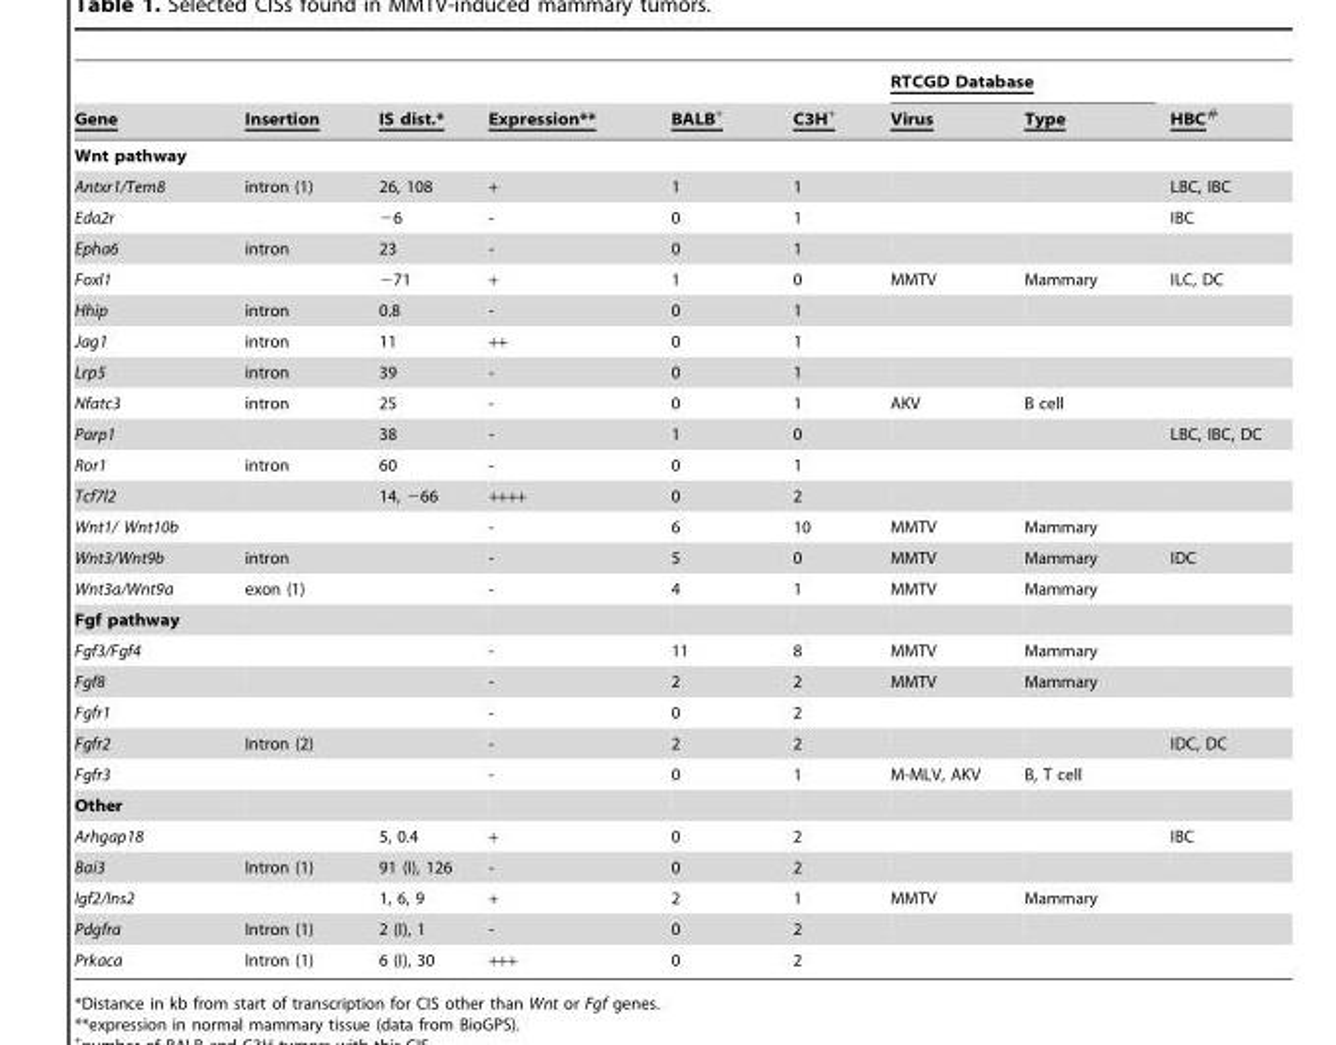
<table><thead><tr><td rowspan="2">Gene</td><td rowspan="2">Insertion</td><td rowspan="2">IS dist.*</td><td rowspan="2">Expression**</td><td rowspan="2">BALB+</td><td rowspan="2">C3H+</td><td colspan="2">RTCGD Database</td><td rowspan="2">HBC#</td></tr><tr><td>Virus</td><td>Type</td></tr></thead><tbody><tr><td colspan="9">Wnt pathway</td></tr><tr><td>Antxr1/Tem8</td><td>intron (1)</td><td>26, 108</td><td>+</td><td>1</td><td>1</td><td></td><td></td><td>LBC, IBC</td></tr><tr><td>Eda2r</td><td></td><td>−6</td><td>-</td><td>0</td><td>1</td><td></td><td></td><td>IBC</td></tr><tr><td>Epha6</td><td>intron</td><td>23</td><td>-</td><td>0</td><td>1</td><td></td><td></td><td></td></tr><tr><td>Foxl1</td><td></td><td>−71</td><td>+</td><td>1</td><td>0</td><td>MMTV</td><td>Mammary</td><td>ILC, DC</td></tr><tr><td>Hhip</td><td>intron</td><td>0.8</td><td>-</td><td>0</td><td>1</td><td></td><td></td><td></td></tr><tr><td>Jag1</td><td>intron</td><td>11</td><td>++</td><td>0</td><td>1</td><td></td><td></td><td></td></tr><tr><td>Lrp5</td><td>intron</td><td>39</td><td>-</td><td>0</td><td>1</td><td></td><td></td><td></td></tr><tr><td>Nfatc3</td><td>intron</td><td>25</td><td>-</td><td>0</td><td>1</td><td>AKV</td><td>B cell</td><td></td></tr><tr><td>Parp1</td><td></td><td>38</td><td>-</td><td>1</td><td>0</td><td></td><td></td><td>LBC, IBC, DC</td></tr><tr><td>Ror1</td><td>intron</td><td>60</td><td>-</td><td>0</td><td>1</td><td></td><td></td><td></td></tr><tr><td>Tcf7l2</td><td></td><td>14, −66</td><td>++++</td><td>0</td><td>2</td><td></td><td></td><td></td></tr><tr><td>Wnt1/ Wnt10b</td><td></td><td></td><td>-</td><td>6</td><td>10</td><td>MMTV</td><td>Mammary</td><td></td></tr><tr><td>Wnt3/Wnt9b</td><td>intron</td><td></td><td>-</td><td>5</td><td>0</td><td>MMTV</td><td>Mammary</td><td>IDC</td></tr><tr><td>Wnt3a/Wnt9a</td><td>exon (1)</td><td></td><td>-</td><td>4</td><td>1</td><td>MMTV</td><td>Mammary</td><td></td></tr><tr><td colspan="9">Fgf pathway</td></tr><tr><td>Fgf3/Fgf4</td><td></td><td></td><td>-</td><td>11</td><td>8</td><td>MMTV</td><td>Mammary</td><td></td></tr><tr><td>Fgf8</td><td></td><td></td><td>-</td><td>2</td><td>2</td><td>MMTV</td><td>Mammary</td><td></td></tr><tr><td>Fgfr1</td><td></td><td></td><td>-</td><td>0</td><td>2</td><td></td><td></td><td></td></tr><tr><td>Fgfr2</td><td>Intron (2)</td><td></td><td>-</td><td>2</td><td>2</td><td></td><td></td><td>IDC, DC</td></tr><tr><td>Fgfr3</td><td></td><td></td><td>-</td><td>0</td><td>1</td><td>M-MLV, AKV</td><td>B, T cell</td><td></td></tr><tr><td colspan="9">Other</td></tr><tr><td>Arhgap18</td><td></td><td>5, 0.4</td><td>+</td><td>0</td><td>2</td><td></td><td></td><td>IBC</td></tr><tr><td>Bai3</td><td>Intron (1)</td><td>91 (I), 126</td><td>-</td><td>0</td><td>2</td><td></td><td></td><td></td></tr><tr><td>Igf2/Ins2</td><td></td><td>1, 6, 9</td><td>+</td><td>2</td><td>1</td><td>MMTV</td><td>Mammary</td><td></td></tr><tr><td>Pdgfra</td><td>Intron (1)</td><td>2 (I), 1</td><td>-</td><td>0</td><td>2</td><td></td><td></td><td></td></tr><tr><td>Prkaca</td><td>Intron (1)</td><td>6 (I), 30</td><td>+++</td><td>0</td><td>2</td><td></td><td></td><td></td></tr></tbody></table>